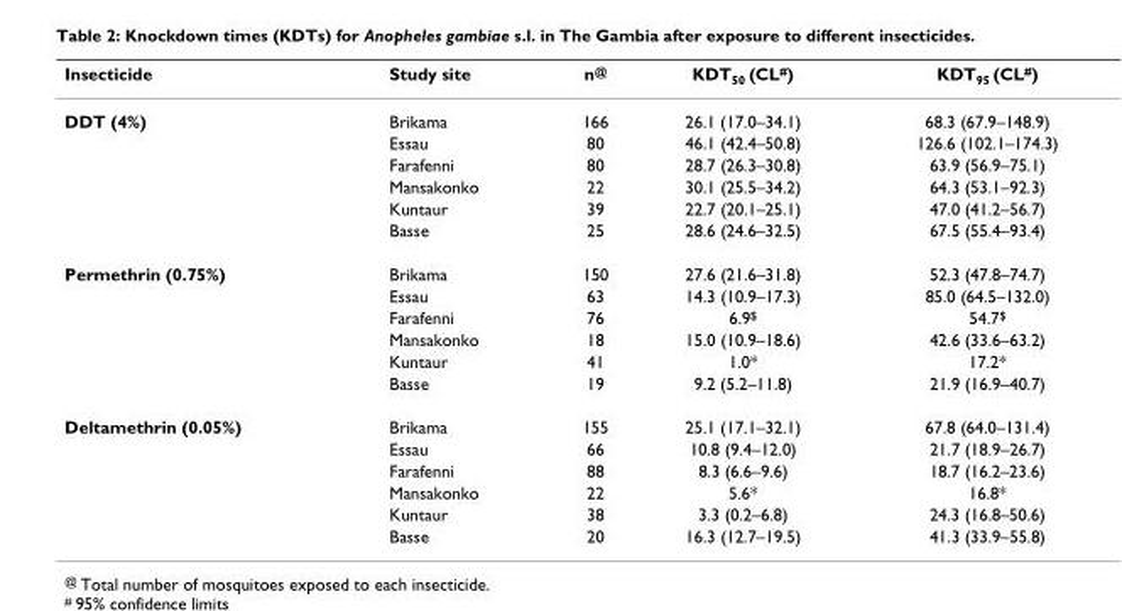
<table><thead><tr><td>Insecticide</td><td>Study site</td><td>n<sup>@</sup></td><td>KDT<sub>50</sub> (CL<sup>#</sup>)</td><td>KDT<sub>95</sub> (CL<sup>#</sup>)</td></tr></thead><tbody><tr><td rowspan="6">DDT (4%)</td><td>Brikama</td><td>166</td><td>26.1 (17.0–34.1)</td><td>68.3 (67.9–148.9)</td></tr><tr><td>Essau</td><td>80</td><td>46.1 (42.4–50.8)</td><td>126.6 (102.1–174.3)</td></tr><tr><td>Farafenni</td><td>80</td><td>28.7 (26.3–30.8)</td><td>63.9 (56.9–75.1)</td></tr><tr><td>Mansakonko</td><td>22</td><td>30.1 (25.5–34.2)</td><td>64.3 (53.1–92.3)</td></tr><tr><td>Kuntaur</td><td>39</td><td>22.7 (20.1–25.1)</td><td>47.0 (41.2–56.7)</td></tr><tr><td>Basse</td><td>25</td><td>28.6 (24.6–32.5)</td><td>67.5 (55.4–93.4)</td></tr><tr><td rowspan="6">Permethrin (0.75%)</td><td>Brikama</td><td>150</td><td>27.6 (21.6–31.8)</td><td>52.3 (47.8–74.7)</td></tr><tr><td>Essau</td><td>63</td><td>14.3 (10.9–17.3)</td><td>85.0 (64.5–132.0)</td></tr><tr><td>Farafenni</td><td>76</td><td>6.9<sup>$</sup></td><td>54.7<sup>$</sup></td></tr><tr><td>Mansakonko</td><td>18</td><td>15.0 (10.9–18.6)</td><td>42.6 (33.6–63.2)</td></tr><tr><td>Kuntaur</td><td>41</td><td>1.0*</td><td>17.2*</td></tr><tr><td>Basse</td><td>19</td><td>9.2 (5.2–11.8)</td><td>21.9 (16.9–40.7)</td></tr><tr><td rowspan="6">Deltamethrin (0.05%)</td><td>Brikama</td><td>155</td><td>25.1 (17.1–32.1)</td><td>67.8 (64.0–131.4)</td></tr><tr><td>Essau</td><td>66</td><td>10.8 (9.4–12.0)</td><td>21.7 (18.9–26.7)</td></tr><tr><td>Farafenni</td><td>88</td><td>8.3 (6.6–9.6)</td><td>18.7 (16.2–23.6)</td></tr><tr><td>Mansakonko</td><td>22</td><td>5.6*</td><td>16.8*</td></tr><tr><td>Kuntaur</td><td>38</td><td>3.3 (0.2–6.8)</td><td>24.3 (16.8–50.6)</td></tr><tr><td>Basse</td><td>20</td><td>16.3 (12.7–19.5)</td><td>41.3 (33.9–55.8)</td></tr></tbody></table>